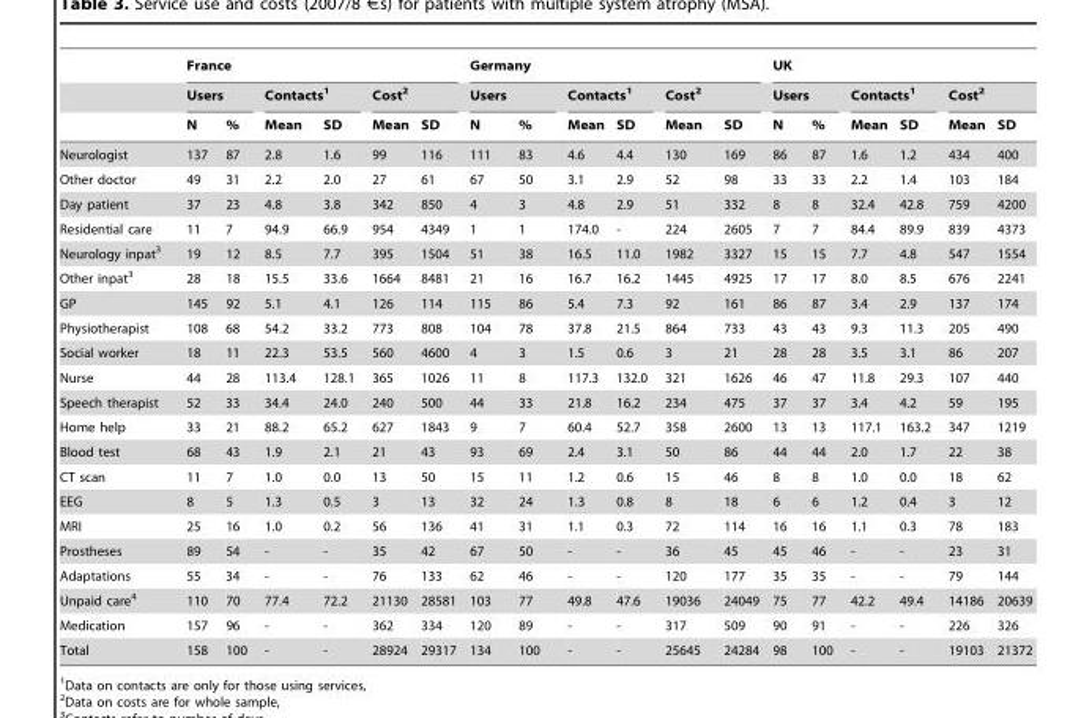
<table><thead><tr><td rowspan="3"></td><td colspan="6">France</td><td colspan="6">Germany</td><td colspan="6">UK</td></tr><tr><td colspan="2">Users</td><td colspan="2">Contacts<sup>1</sup></td><td colspan="2">Cost<sup>2</sup></td><td colspan="2">Users</td><td colspan="2">Contacts<sup>1</sup></td><td colspan="2">Cost<sup>2</sup></td><td colspan="2">Users</td><td colspan="2">Contacts<sup>1</sup></td><td colspan="2">Cost<sup>2</sup></td></tr><tr><td>N</td><td>%</td><td>Mean</td><td>SD</td><td>Mean</td><td>SD</td><td>N</td><td>%</td><td>Mean</td><td>SD</td><td>Mean</td><td>SD</td><td>N</td><td>%</td><td>Mean</td><td>SD</td><td>Mean</td><td>SD</td></tr></thead><tbody><tr><td>Neurologist</td><td>137</td><td>87</td><td>2.8</td><td>1.6</td><td>99</td><td>116</td><td>111</td><td>83</td><td>4.6</td><td>4.4</td><td>130</td><td>169</td><td>86</td><td>87</td><td>1.6</td><td>1.2</td><td>434</td><td>400</td></tr><tr><td>Other doctor</td><td>49</td><td>31</td><td>2.2</td><td>2.0</td><td>27</td><td>61</td><td>67</td><td>50</td><td>3.1</td><td>2.9</td><td>52</td><td>98</td><td>33</td><td>33</td><td>2.2</td><td>1.4</td><td>103</td><td>184</td></tr><tr><td>Day patient</td><td>37</td><td>23</td><td>4.8</td><td>3.8</td><td>342</td><td>850</td><td>4</td><td>3</td><td>4.8</td><td>2.9</td><td>51</td><td>332</td><td>8</td><td>8</td><td>32.4</td><td>42.8</td><td>759</td><td>4200</td></tr><tr><td>Residential care</td><td>11</td><td>7</td><td>94.9</td><td>66.9</td><td>954</td><td>4349</td><td>1</td><td>1</td><td>174.0</td><td>-</td><td>224</td><td>2605</td><td>7</td><td>7</td><td>84.4</td><td>89.9</td><td>839</td><td>4373</td></tr><tr><td>Neurology inpat<sup>3</sup></td><td>19</td><td>12</td><td>8.5</td><td>7.7</td><td>395</td><td>1504</td><td>51</td><td>38</td><td>16.5</td><td>11.0</td><td>1982</td><td>3327</td><td>15</td><td>15</td><td>7.7</td><td>4.8</td><td>547</td><td>1554</td></tr><tr><td>Other inpat<sup>3</sup></td><td>28</td><td>18</td><td>15.5</td><td>33.6</td><td>1664</td><td>8481</td><td>21</td><td>16</td><td>16.7</td><td>16.2</td><td>1445</td><td>4925</td><td>17</td><td>17</td><td>8.0</td><td>8.5</td><td>676</td><td>2241</td></tr><tr><td>GP</td><td>145</td><td>92</td><td>5.1</td><td>4.1</td><td>126</td><td>114</td><td>115</td><td>86</td><td>5.4</td><td>7.3</td><td>92</td><td>161</td><td>86</td><td>87</td><td>3.4</td><td>2.9</td><td>137</td><td>174</td></tr><tr><td>Physiotherapist</td><td>108</td><td>68</td><td>54.2</td><td>33.2</td><td>773</td><td>808</td><td>104</td><td>78</td><td>37.8</td><td>21.5</td><td>864</td><td>733</td><td>43</td><td>43</td><td>9.3</td><td>11.3</td><td>205</td><td>490</td></tr><tr><td>Social worker</td><td>18</td><td>11</td><td>22.3</td><td>53.5</td><td>560</td><td>4600</td><td>4</td><td>3</td><td>1.5</td><td>0.6</td><td>3</td><td>21</td><td>28</td><td>28</td><td>3.5</td><td>3.1</td><td>86</td><td>207</td></tr><tr><td>Nurse</td><td>44</td><td>28</td><td>113.4</td><td>128.1</td><td>365</td><td>1026</td><td>11</td><td>8</td><td>117.3</td><td>132.0</td><td>321</td><td>1626</td><td>46</td><td>47</td><td>11.8</td><td>29.3</td><td>107</td><td>440</td></tr><tr><td>Speech therapist</td><td>52</td><td>33</td><td>34.4</td><td>24.0</td><td>240</td><td>500</td><td>44</td><td>33</td><td>21.8</td><td>16.2</td><td>234</td><td>475</td><td>37</td><td>37</td><td>3.4</td><td>4.2</td><td>59</td><td>195</td></tr><tr><td>Home help</td><td>33</td><td>21</td><td>88.2</td><td>65.2</td><td>627</td><td>1843</td><td>9</td><td>7</td><td>60.4</td><td>52.7</td><td>358</td><td>2600</td><td>13</td><td>13</td><td>117.1</td><td>163.2</td><td>347</td><td>1219</td></tr><tr><td>Blood test</td><td>68</td><td>43</td><td>1.9</td><td>2.1</td><td>21</td><td>43</td><td>93</td><td>69</td><td>2.4</td><td>3.1</td><td>50</td><td>86</td><td>44</td><td>44</td><td>2.0</td><td>1.7</td><td>22</td><td>38</td></tr><tr><td>CT scan</td><td>11</td><td>7</td><td>1.0</td><td>0.0</td><td>13</td><td>50</td><td>15</td><td>11</td><td>1.2</td><td>0.6</td><td>15</td><td>46</td><td>8</td><td>8</td><td>1.0</td><td>0.0</td><td>18</td><td>62</td></tr><tr><td>EEG</td><td>8</td><td>5</td><td>1.3</td><td>0.5</td><td>3</td><td>13</td><td>32</td><td>24</td><td>1.3</td><td>0.8</td><td>8</td><td>18</td><td>6</td><td>6</td><td>1.2</td><td>0.4</td><td>3</td><td>12</td></tr><tr><td>MRI</td><td>25</td><td>16</td><td>1.0</td><td>0.2</td><td>56</td><td>136</td><td>41</td><td>31</td><td>1.1</td><td>0.3</td><td>72</td><td>114</td><td>16</td><td>16</td><td>1.1</td><td>0.3</td><td>78</td><td>183</td></tr><tr><td>Prostheses</td><td>89</td><td>54</td><td>-</td><td>-</td><td>35</td><td>42</td><td>67</td><td>50</td><td>-</td><td>-</td><td>36</td><td>45</td><td>45</td><td>46</td><td>-</td><td>-</td><td>23</td><td>31</td></tr><tr><td>Adaptations</td><td>55</td><td>34</td><td>-</td><td>-</td><td>76</td><td>133</td><td>62</td><td>46</td><td>-</td><td>-</td><td>120</td><td>177</td><td>35</td><td>35</td><td>-</td><td>-</td><td>79</td><td>144</td></tr><tr><td>Unpaid care<sup>4</sup></td><td>110</td><td>70</td><td>77.4</td><td>72.2</td><td>21130</td><td>28581</td><td>103</td><td>77</td><td>49.8</td><td>47.6</td><td>19036</td><td>24049</td><td>75</td><td>77</td><td>42.2</td><td>49.4</td><td>14186</td><td>20639</td></tr><tr><td>Medication</td><td>157</td><td>96</td><td>-</td><td>-</td><td>362</td><td>334</td><td>120</td><td>89</td><td>-</td><td>-</td><td>317</td><td>509</td><td>90</td><td>91</td><td>-</td><td>-</td><td>226</td><td>326</td></tr><tr><td>Total</td><td>158</td><td>100</td><td>-</td><td>-</td><td>28924</td><td>29317</td><td>134</td><td>100</td><td>-</td><td>-</td><td>25645</td><td>24284</td><td>98</td><td>100</td><td>-</td><td>-</td><td>19103</td><td>21372</td></tr></tbody></table>